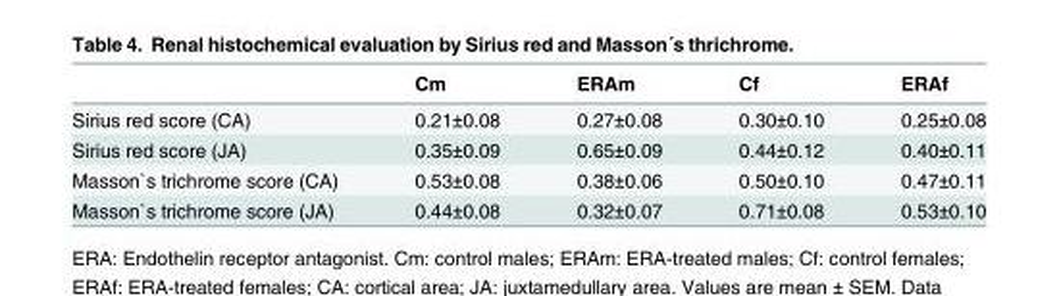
<table><thead><tr><td></td><td>Cm</td><td>ERAm</td><td>Cf</td><td>ERAf</td></tr></thead><tbody><tr><td>Sirius red score (CA)</td><td>0.21±0.08</td><td>0.27±0.08</td><td>0.30±0.10</td><td>0.25±0.08</td></tr><tr><td>Sirius red score (JA)</td><td>0.35±0.09</td><td>0.65±0.09</td><td>0.44±0.12</td><td>0.40±0.11</td></tr><tr><td>Masson`s trichrome score (CA)</td><td>0.53±0.08</td><td>0.38±0.06</td><td>0.50±0.10</td><td>0.47±0.11</td></tr><tr><td>Masson`s trichrome score (JA)</td><td>0.44±0.08</td><td>0.32±0.07</td><td>0.71±0.08</td><td>0.53±0.10</td></tr></tbody></table>